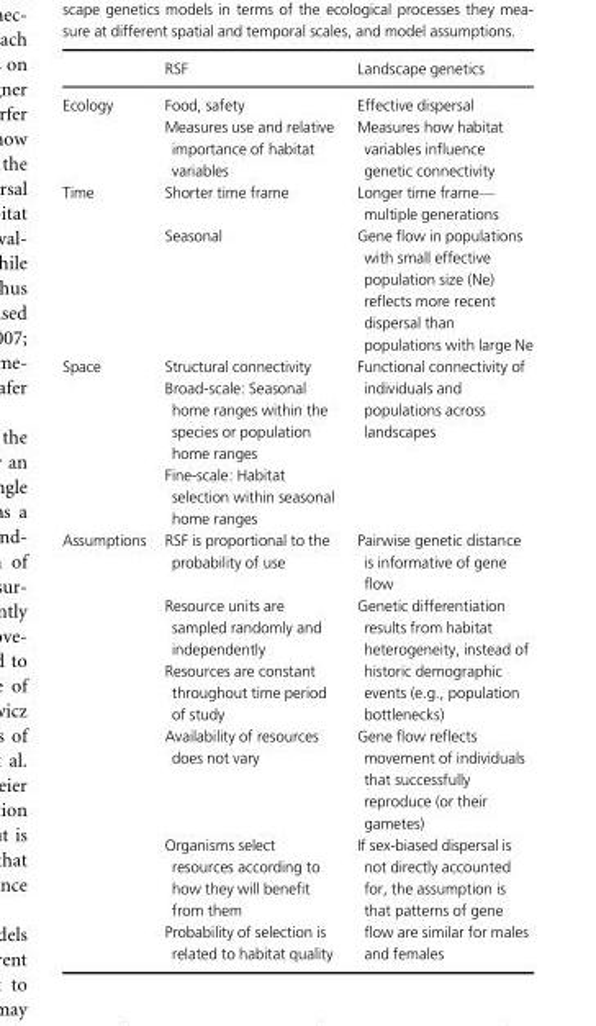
<table><thead><tr><td></td><td>RSF</td><td>Landscape genetics</td></tr></thead><tbody><tr><td rowspan="2">Ecology</td><td>Food, safety</td><td>Effective dispersal</td></tr><tr><td>Measures use and relative importance of habitat variables</td><td>Measures how habitat variables influence genetic connectivity</td></tr><tr><td rowspan="2">Time</td><td>Shorter time frame</td><td>Longer time frame— multiple generations</td></tr><tr><td>Seasonal</td><td>Gene flow in populations with small effective population size (Ne) reflects more recent dispersal than populations with large Ne</td></tr><tr><td rowspan="3">Space</td><td>Structural connectivity</td><td rowspan="3">Functional connectivity of individuals and populations across landscapes</td></tr><tr><td>Broad-scale: Seasonal home ranges within the species or population home ranges</td></tr><tr><td>Fine-scale: Habitat selection within seasonal home ranges</td></tr><tr><td rowspan="6">Assumptions</td><td>RSF is proportional to the probability of use</td><td>Pairwise genetic distance is informative of gene flow</td></tr><tr><td>Resource units are sampled randomly and independently</td><td rowspan="2">Genetic differentiation results from habitat heterogeneity, instead of historic demographic events (e.g., population bottlenecks)</td></tr><tr><td>Resources are constant throughout time period of study</td></tr><tr><td>Availability of resources does not vary</td><td>Gene flow reflects movement of individuals that successfully reproduce (or their gametes)</td></tr><tr><td>Organisms select resources according to how they will benefit from them</td><td rowspan="2">If sex-biased dispersal is not directly accounted for, the assumption is that patterns of gene flow are similar for males and females</td></tr><tr><td>Probability of selection is related to habitat quality</td></tr></tbody></table>